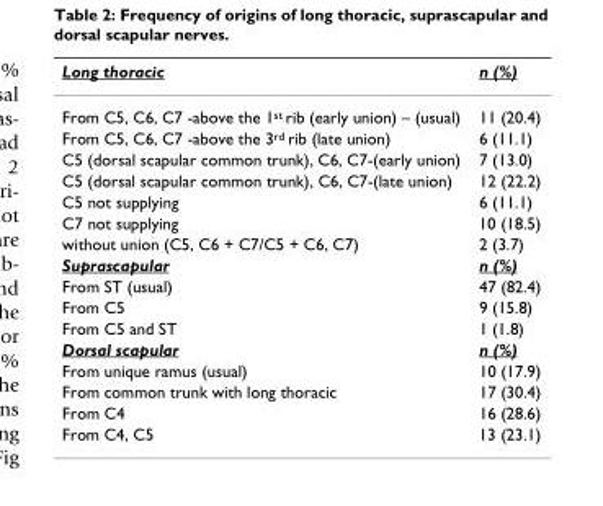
<table><thead><tr><td>Long thoracic</td><td>n (%)</td></tr></thead><tbody><tr><td>From C5, C6, C7 -above the 1<sup>st</sup> rib (early union) – (usual)</td><td>11 (20.4)</td></tr><tr><td>From C5, C6, C7 -above the 3<sup>rd</sup> rib (late union)</td><td>6 (11.1)</td></tr><tr><td>C5 (dorsal scapular common trunk), C6, C7-(early union)</td><td>7 (13.0)</td></tr><tr><td>C5 (dorsal scapular common trunk), C6, C7-(late union)</td><td>12 (22.2)</td></tr><tr><td>C5 not supplying</td><td>6 (11.1)</td></tr><tr><td>C7 not supplying</td><td>10 (18.5)</td></tr><tr><td>without union (C5, C6 + C7/C5 + C6, C7)</td><td>2 (3.7)</td></tr><tr><td>Suprascapular</td><td>n (%)</td></tr><tr><td>From ST (usual)</td><td>47 (82.4)</td></tr><tr><td>From C5</td><td>9 (15.8)</td></tr><tr><td>From C5 and ST</td><td>1 (1.8)</td></tr><tr><td>Dorsal scapular</td><td>n (%)</td></tr><tr><td>From unique ramus (usual)</td><td>10 (17.9)</td></tr><tr><td>From common trunk with long thoracic</td><td>17 (30.4)</td></tr><tr><td>From C4</td><td>16 (28.6)</td></tr><tr><td>From C4, C5</td><td>13 (23.1)</td></tr></tbody></table>